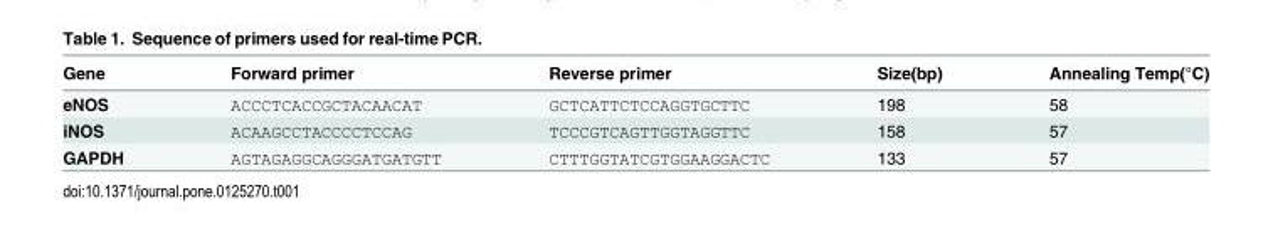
<table><thead><tr><td>Gene</td><td>Forward primer</td><td>Reverse primer</td><td>Size(bp)</td><td>Annealing Temp(°C)</td></tr></thead><tbody><tr><td>eNOS</td><td>ACCCTCACCGCTACAACAT</td><td>GCTCATTCTCCAGGTGCTTC</td><td>198</td><td>58</td></tr><tr><td>iNOS</td><td>ACAAGCCTACCCCTCCAG</td><td>TCCCGTCAGTTGGTAGGTTC</td><td>158</td><td>57</td></tr><tr><td>GAPDH</td><td>AGTAGAGGCAGGGATGATGTT</td><td>CTTTGGTATCGTGGAAGGACTC</td><td>133</td><td>57</td></tr></tbody></table>